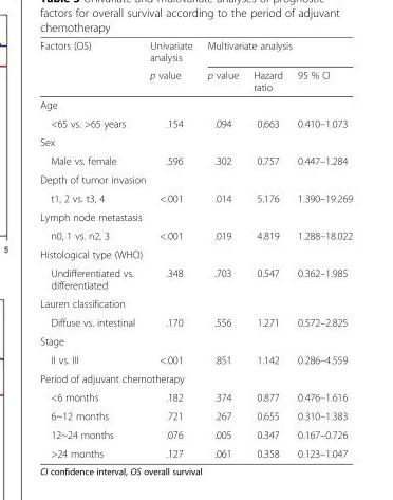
<table><thead><tr><td rowspan="2">Factors (OS)</td><td rowspan="2">Univariate analysis p value</td><td colspan="3">Multivariate analysis</td></tr><tr><td>p value</td><td>Hazard ratio</td><td>95 % CI</td></tr></thead><tbody><tr><td colspan="5">Age</td></tr><tr><td>&lt;65 vs. &gt;65 years</td><td>.154</td><td>.094</td><td>0.663</td><td>0.410–1.073</td></tr><tr><td colspan="5">Sex</td></tr><tr><td>Male vs. female</td><td>.596</td><td>.302</td><td>0.757</td><td>0.447–1.284</td></tr><tr><td colspan="5">Depth of tumor invasion</td></tr><tr><td>t1, 2 vs. t3, 4</td><td>&lt;.001</td><td>.014</td><td>5.176</td><td>1.390–19.269</td></tr><tr><td colspan="5">Lymph node metastasis</td></tr><tr><td>n0, 1 vs. n2, 3</td><td>&lt;.001</td><td>.019</td><td>4.819</td><td>1.288–18.022</td></tr><tr><td colspan="5">Histological type (WHO)</td></tr><tr><td>Undifferentiated vs. differentiated</td><td>.348</td><td>.703</td><td>0.547</td><td>0.362–1.985</td></tr><tr><td colspan="5">Lauren classification</td></tr><tr><td>Diffuse vs. intestinal</td><td>.170</td><td>.556</td><td>1.271</td><td>0.572–2.825</td></tr><tr><td colspan="5">Stage</td></tr><tr><td>II vs. III</td><td>&lt;.001</td><td>.851</td><td>1.142</td><td>0.286–4.559</td></tr><tr><td colspan="5">Period of adjuvant chemotherapy</td></tr><tr><td>&lt;6 months</td><td>.182</td><td>.374</td><td>0.877</td><td>0.476–1.616</td></tr><tr><td>6~12 months</td><td>.721</td><td>.267</td><td>0.655</td><td>0.310–1.383</td></tr><tr><td>12~24 months</td><td>.076</td><td>.005</td><td>0.347</td><td>0.167–0.726</td></tr><tr><td>&gt;24 months</td><td>.127</td><td>.061</td><td>0.358</td><td>0.123–1.047</td></tr></tbody></table>